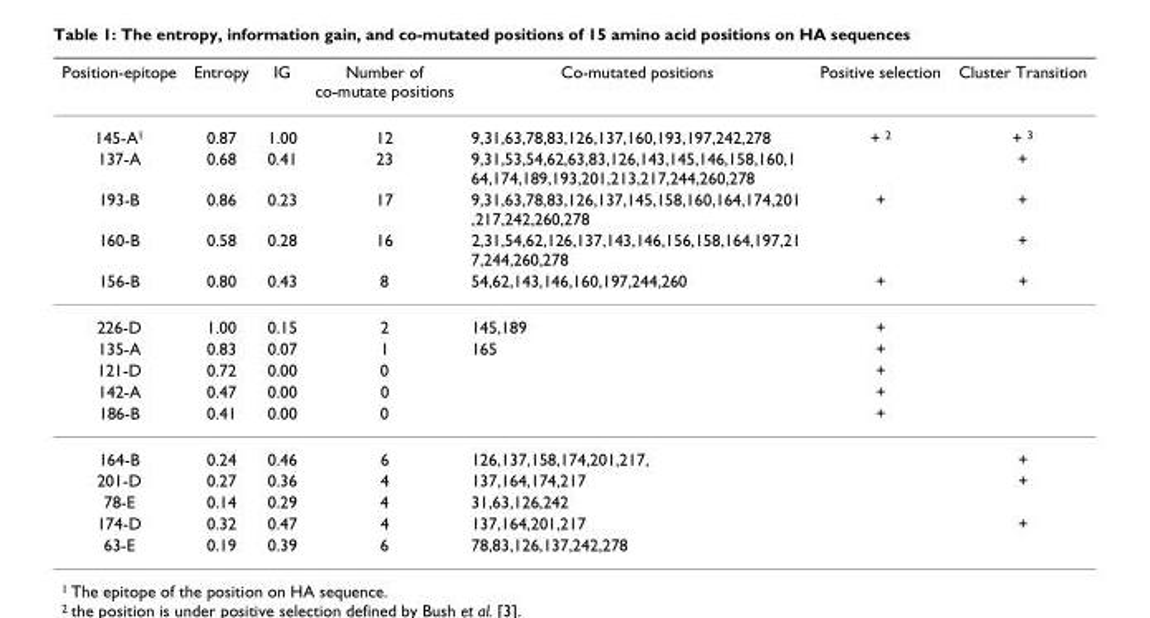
<table><thead><tr><td>Position-epitope</td><td>Entropy</td><td>IG</td><td>Number of co-mutate positions</td><td>Co-mutated positions</td><td>Positive selection</td><td>Cluster Transition</td></tr></thead><tbody><tr><td>145-A<sup>1</sup></td><td>0.87</td><td>1.00</td><td>12</td><td>9,31,63,78,83,126,137,160,193,197,242,278</td><td>+ <sup>2</sup></td><td>+ <sup>3</sup></td></tr><tr><td>137-A</td><td>0.68</td><td>0.41</td><td>23</td><td>9,31,53,54,62,63,83,126,143,145,146,158,160,1 64,174,189,193,201,213,217,244,260,278</td><td></td><td>+</td></tr><tr><td>193-B</td><td>0.86</td><td>0.23</td><td>17</td><td>9,31,63,78,83,126,137,145,158,160,164,174,201 ,217,242,260,278</td><td>+</td><td>+</td></tr><tr><td>160-B</td><td>0.58</td><td>0.28</td><td>16</td><td>2,31,54,62,126,137,143,146,156,158,164,197,21 7,244,260,278</td><td></td><td>+</td></tr><tr><td>156-B</td><td>0.80</td><td>0.43</td><td>8</td><td>54,62,143,146,160,197,244,260</td><td>+</td><td>+</td></tr><tr><td>226-D</td><td>1.00</td><td>0.15</td><td>2</td><td>145,189</td><td>+</td><td></td></tr><tr><td>135-A</td><td>0.83</td><td>0.07</td><td>1</td><td>165</td><td>+</td><td></td></tr><tr><td>121-D</td><td>0.72</td><td>0.00</td><td>0</td><td></td><td>+</td><td></td></tr><tr><td>142-A</td><td>0.47</td><td>0.00</td><td>0</td><td></td><td>+</td><td></td></tr><tr><td>186-B</td><td>0.41</td><td>0.00</td><td>0</td><td></td><td>+</td><td></td></tr><tr><td>164-B</td><td>0.24</td><td>0.46</td><td>6</td><td>126,137,158,174,201,217,</td><td></td><td>+</td></tr><tr><td>201-D</td><td>0.27</td><td>0.36</td><td>4</td><td>137,164,174,217</td><td></td><td>+</td></tr><tr><td>78-E</td><td>0.14</td><td>0.29</td><td>4</td><td>31,63,126,242</td><td></td><td></td></tr><tr><td>174-D</td><td>0.32</td><td>0.47</td><td>4</td><td>137,164,201,217</td><td></td><td>+</td></tr><tr><td>63-E</td><td>0.19</td><td>0.39</td><td>6</td><td>78,83,126,137,242,278</td><td></td><td></td></tr></tbody></table>